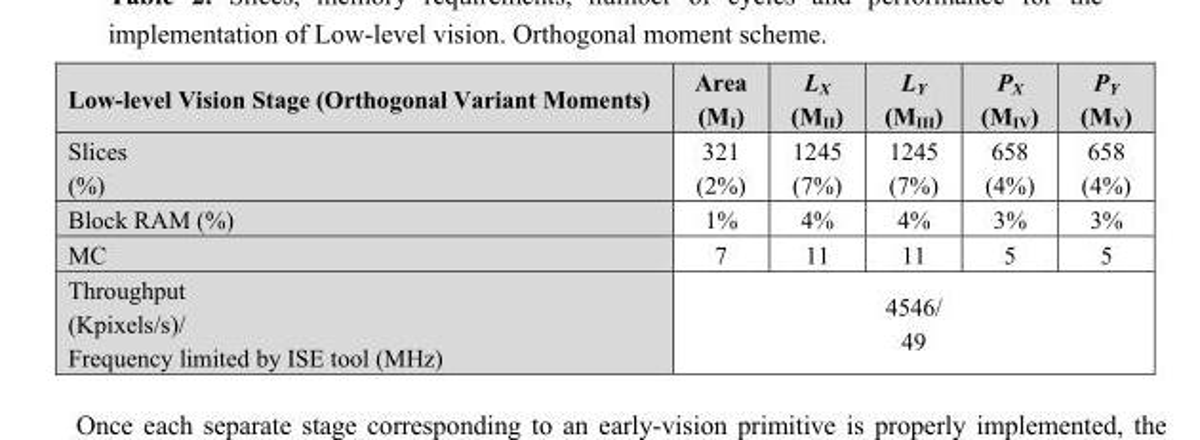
<table><thead><tr><td>Low-level Vision Stage (Orthogonal Variant Moments)</td><td>Area (M<sub>I</sub>)</td><td>L<sub>X</sub> (M<sub>II</sub>)</td><td>L<sub>Y</sub> (M<sub>III</sub>)</td><td>P<sub>X</sub> (M<sub>IV</sub>)</td><td>P<sub>Y</sub> (M<sub>V</sub>)</td></tr></thead><tbody><tr><td>Slices (%)</td><td>321 (2%)</td><td>1245 (7%)</td><td>1245 (7%)</td><td>658 (4%)</td><td>658 (4%)</td></tr><tr><td>Block RAM (%)</td><td>1%</td><td>4%</td><td>4%</td><td>3%</td><td>3%</td></tr><tr><td>MC</td><td>7</td><td>11</td><td>11</td><td>5</td><td>5</td></tr><tr><td>Throughput (Kpixels/s)/ Frequency limited by ISE tool (MHz)</td><td colspan="5">4546/ 49</td></tr></tbody></table>